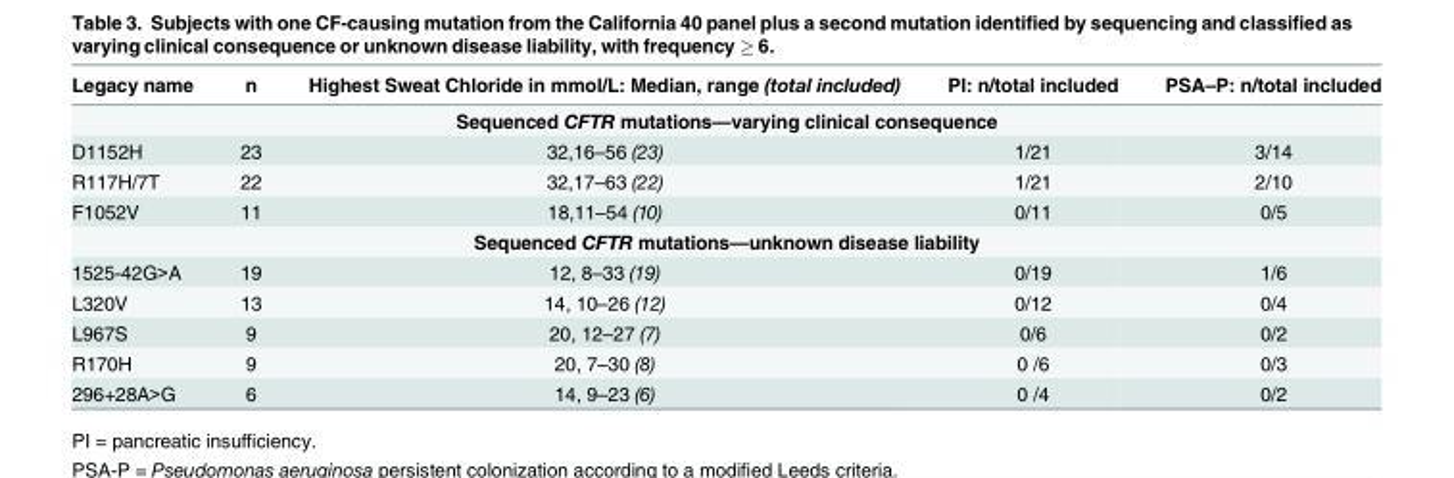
<table><thead><tr><td>Legacy name</td><td>n</td><td>Highest Sweat Chloride in mmol/L: Median, range (total included)</td><td>PI: n/total included</td><td>PSA–P: n/total included</td></tr></thead><tbody><tr><td colspan="5">Sequenced CFTR mutations—varying clinical consequence</td></tr><tr><td>D1152H</td><td>23</td><td>32,16–56 (23)</td><td>1/21</td><td>3/14</td></tr><tr><td>R117H/7T</td><td>22</td><td>32,17–63 (22)</td><td>1/21</td><td>2/10</td></tr><tr><td>F1052V</td><td>11</td><td>18,11–54 (10)</td><td>0/11</td><td>0/5</td></tr><tr><td colspan="5">Sequenced CFTR mutations—unknown disease liability</td></tr><tr><td>1525-42G&gt;A</td><td>19</td><td>12, 8–33 (19)</td><td>0/19</td><td>1/6</td></tr><tr><td>L320V</td><td>13</td><td>14, 10–26 (12)</td><td>0/12</td><td>0/4</td></tr><tr><td>L967S</td><td>9</td><td>20, 12–27 (7)</td><td>0/6</td><td>0/2</td></tr><tr><td>R170H</td><td>9</td><td>20, 7–30 (8)</td><td>0 /6</td><td>0/3</td></tr><tr><td>296+28A&gt;G</td><td>6</td><td>14, 9–23 (6)</td><td>0 /4</td><td>0/2</td></tr></tbody></table>